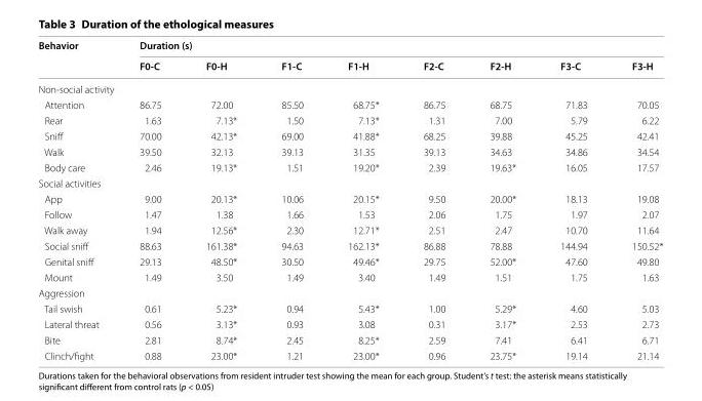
<table><thead><tr><td rowspan="2">Behavior</td><td colspan="8">Duration (s)</td></tr><tr><td>F0‑C</td><td>F0‑H</td><td>F1‑C</td><td>F1‑H</td><td>F2‑C</td><td>F2‑H</td><td>F3‑C</td><td>F3‑H</td></tr></thead><tbody><tr><td colspan="9">Non-social activity</td></tr><tr><td>Attention</td><td>86.75</td><td>72.00</td><td>85.50</td><td>68.75*</td><td>86.75</td><td>68.75</td><td>71.83</td><td>70.05</td></tr><tr><td>Rear</td><td>1.63</td><td>7.13*</td><td>1.50</td><td>7.13*</td><td>1.31</td><td>7.00</td><td>5.79</td><td>6.22</td></tr><tr><td>Sniff</td><td>70.00</td><td>42.13*</td><td>69.00</td><td>41.88*</td><td>68.25</td><td>39.88</td><td>45.25</td><td>42.41</td></tr><tr><td>Walk</td><td>39.50</td><td>32.13</td><td>39.13</td><td>31.35</td><td>39.13</td><td>34.63</td><td>34.86</td><td>34.54</td></tr><tr><td>Body care</td><td>2.46</td><td>19.13*</td><td>1.51</td><td>19.20*</td><td>2.39</td><td>19.63*</td><td>16.05</td><td>17.57</td></tr><tr><td colspan="9">Social activities</td></tr><tr><td>App</td><td>9.00</td><td>20.13*</td><td>10.06</td><td>20.15*</td><td>9.50</td><td>20.00*</td><td>18.13</td><td>19.08</td></tr><tr><td>Follow</td><td>1.47</td><td>1.38</td><td>1.66</td><td>1.53</td><td>2.06</td><td>1.75</td><td>1.97</td><td>2.07</td></tr><tr><td>Walk away</td><td>1.94</td><td>12.56*</td><td>2.30</td><td>12.71*</td><td>2.51</td><td>2.47</td><td>10.70</td><td>11.64</td></tr><tr><td>Social sniff</td><td>88.63</td><td>161.38*</td><td>94.63</td><td>162.13*</td><td>86.88</td><td>78.88</td><td>144.94</td><td>150.52*</td></tr><tr><td>Genital sniff</td><td>29.13</td><td>48.50*</td><td>30.50</td><td>49.46*</td><td>29.75</td><td>52.00*</td><td>47.60</td><td>49.80</td></tr><tr><td>Mount</td><td>1.49</td><td>3.50</td><td>1.49</td><td>3.40</td><td>1.49</td><td>1.51</td><td>1.75</td><td>1.63</td></tr><tr><td colspan="9">Aggression</td></tr><tr><td>Tail swish</td><td>0.61</td><td>5.23*</td><td>0.94</td><td>5.43*</td><td>1.00</td><td>5.29*</td><td>4.60</td><td>5.03</td></tr><tr><td>Lateral threat</td><td>0.56</td><td>3.13*</td><td>0.93</td><td>3.08</td><td>0.31</td><td>3.17*</td><td>2.53</td><td>2.73</td></tr><tr><td>Bite</td><td>2.81</td><td>8.74*</td><td>2.45</td><td>8.25*</td><td>2.59</td><td>7.41</td><td>6.41</td><td>6.71</td></tr><tr><td>Clinch/fight</td><td>0.88</td><td>23.00*</td><td>1.21</td><td>23.00*</td><td>0.96</td><td>23.75*</td><td>19.14</td><td>21.14</td></tr></tbody></table>